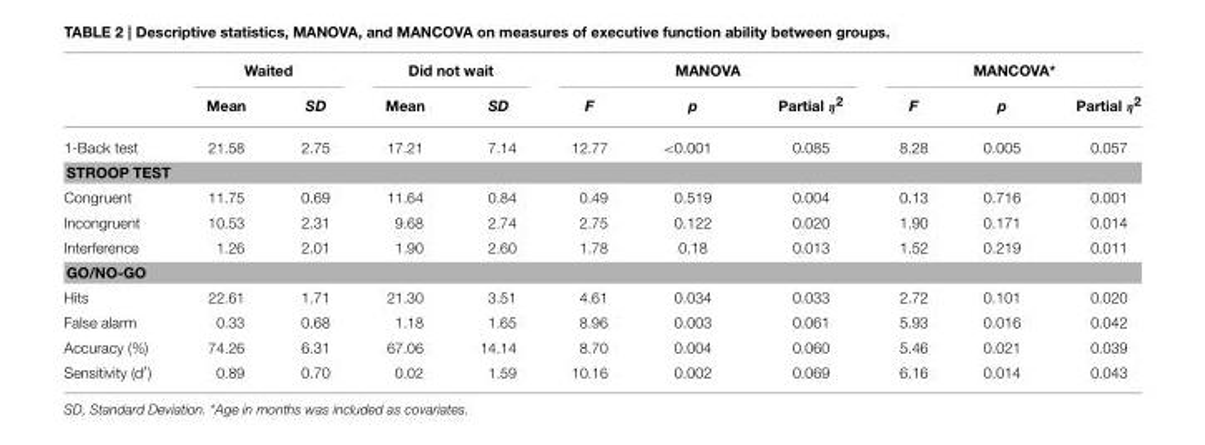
<table><thead><tr><td rowspan="2"></td><td colspan="2">Waited</td><td colspan="2">Did not wait</td><td colspan="3">MANOVA</td><td colspan="3">MANCOVA*</td></tr><tr><td>Mean</td><td>SD</td><td>Mean</td><td>SD</td><td>F</td><td>p</td><td>Partial η<sup>2</sup></td><td>F</td><td>p</td><td>Partial η<sup>2</sup></td></tr></thead><tbody><tr><td>1-Back test</td><td>21.58</td><td>2.75</td><td>17.21</td><td>7.14</td><td>12.77</td><td>&lt;0.001</td><td>0.085</td><td>8.28</td><td>0.005</td><td>0.057</td></tr><tr><td colspan="11">STROOP TEST</td></tr><tr><td>Congruent</td><td>11.75</td><td>0.69</td><td>11.64</td><td>0.84</td><td>0.49</td><td>0.519</td><td>0.004</td><td>0.13</td><td>0.716</td><td>0.001</td></tr><tr><td>Incongruent</td><td>10.53</td><td>2.31</td><td>9.68</td><td>2.74</td><td>2.75</td><td>0.122</td><td>0.020</td><td>1.90</td><td>0.171</td><td>0.014</td></tr><tr><td>Interference</td><td>1.26</td><td>2.01</td><td>1.90</td><td>2.60</td><td>1.78</td><td>0.18</td><td>0.013</td><td>1.52</td><td>0.219</td><td>0.011</td></tr><tr><td colspan="11">GO/NO-GO</td></tr><tr><td>Hits</td><td>22.61</td><td>1.71</td><td>21.30</td><td>3.51</td><td>4.61</td><td>0.034</td><td>0.033</td><td>2.72</td><td>0.101</td><td>0.020</td></tr><tr><td>False alarm</td><td>0.33</td><td>0.68</td><td>1.18</td><td>1.65</td><td>8.96</td><td>0.003</td><td>0.061</td><td>5.93</td><td>0.016</td><td>0.042</td></tr><tr><td>Accuracy (%)</td><td>74.26</td><td>6.31</td><td>67.06</td><td>14.14</td><td>8.70</td><td>0.004</td><td>0.060</td><td>5.46</td><td>0.021</td><td>0.039</td></tr><tr><td>Sensitivity (d′)</td><td>0.89</td><td>0.70</td><td>0.02</td><td>1.59</td><td>10.16</td><td>0.002</td><td>0.069</td><td>6.16</td><td>0.014</td><td>0.043</td></tr></tbody></table>